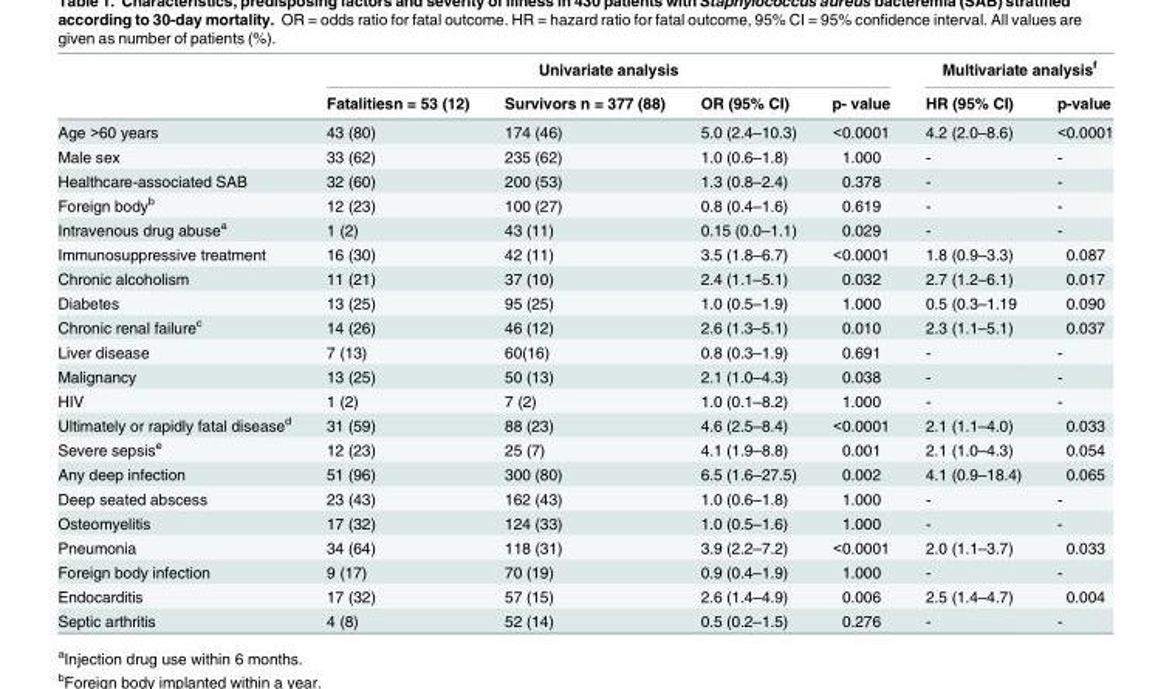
<table><thead><tr><td rowspan="2"></td><td colspan="4">Univariate analysis</td><td colspan="2">Multivariate analysis<sup>f</sup></td></tr><tr><td>Fatalitiesn = 53 (12)</td><td>Survivors n = 377 (88)</td><td>OR (95% CI)</td><td>p- value</td><td>HR (95% CI)</td><td>p-value</td></tr></thead><tbody><tr><td>Age &gt;60 years</td><td>43 (80)</td><td>174 (46)</td><td>5.0 (2.4–10.3)</td><td>&lt;0.0001</td><td>4.2 (2.0–8.6)</td><td>&lt;0.0001</td></tr><tr><td>Male sex</td><td>33 (62)</td><td>235 (62)</td><td>1.0 (0.6–1.8)</td><td>1.000</td><td>-</td><td>-</td></tr><tr><td>Healthcare-associated SAB</td><td>32 (60)</td><td>200 (53)</td><td>1.3 (0.8–2.4)</td><td>0.378</td><td>-</td><td>-</td></tr><tr><td>Foreign body<sup>b</sup></td><td>12 (23)</td><td>100 (27)</td><td>0.8 (0.4–1.6)</td><td>0.619</td><td>-</td><td>-</td></tr><tr><td>Intravenous drug abuse<sup>a</sup></td><td>1 (2)</td><td>43 (11)</td><td>0.15 (0.0–1.1)</td><td>0.029</td><td>-</td><td>-</td></tr><tr><td>Immunosuppressive treatment</td><td>16 (30)</td><td>42 (11)</td><td>3.5 (1.8–6.7)</td><td>&lt;0.0001</td><td>1.8 (0.9–3.3)</td><td>0.087</td></tr><tr><td>Chronic alcoholism</td><td>11 (21)</td><td>37 (10)</td><td>2.4 (1.1–5.1)</td><td>0.032</td><td>2.7 (1.2–6.1)</td><td>0.017</td></tr><tr><td>Diabetes</td><td>13 (25)</td><td>95 (25)</td><td>1.0 (0.5–1.9)</td><td>1.000</td><td>0.5 (0.3–1.19</td><td>0.090</td></tr><tr><td>Chronic renal failure<sup>c</sup></td><td>14 (26)</td><td>46 (12)</td><td>2.6 (1.3–5.1)</td><td>0.010</td><td>2.3 (1.1–5.1)</td><td>0.037</td></tr><tr><td>Liver disease</td><td>7 (13)</td><td>60(16)</td><td>0.8 (0.3–1.9)</td><td>0.691</td><td>-</td><td>-</td></tr><tr><td>Malignancy</td><td>13 (25)</td><td>50 (13)</td><td>2.1 (1.0–4.3)</td><td>0.038</td><td>-</td><td>-</td></tr><tr><td>HIV</td><td>1 (2)</td><td>7 (2)</td><td>1.0 (0.1–8.2)</td><td>1.000</td><td>-</td><td>-</td></tr><tr><td>Ultimately or rapidly fatal disease<sup>d</sup></td><td>31 (59)</td><td>88 (23)</td><td>4.6 (2.5–8.4)</td><td>&lt;0.0001</td><td>2.1 (1.1–4.0)</td><td>0.033</td></tr><tr><td>Severe sepsis<sup>e</sup></td><td>12 (23)</td><td>25 (7)</td><td>4.1 (1.9–8.8)</td><td>0.001</td><td>2.1 (1.0–4.3)</td><td>0.054</td></tr><tr><td>Any deep infection</td><td>51 (96)</td><td>300 (80)</td><td>6.5 (1.6–27.5)</td><td>0.002</td><td>4.1 (0.9–18.4)</td><td>0.065</td></tr><tr><td>Deep seated abscess</td><td>23 (43)</td><td>162 (43)</td><td>1.0 (0.6–1.8)</td><td>1.000</td><td>-</td><td>-</td></tr><tr><td>Osteomyelitis</td><td>17 (32)</td><td>124 (33)</td><td>1.0 (0.5–1.6)</td><td>1.000</td><td>-</td><td>-</td></tr><tr><td>Pneumonia</td><td>34 (64)</td><td>118 (31)</td><td>3.9 (2.2–7.2)</td><td>&lt;0.0001</td><td>2.0 (1.1–3.7)</td><td>0.033</td></tr><tr><td>Foreign body infection</td><td>9 (17)</td><td>70 (19)</td><td>0.9 (0.4–1.9)</td><td>1.000</td><td>-</td><td>-</td></tr><tr><td>Endocarditis</td><td>17 (32)</td><td>57 (15)</td><td>2.6 (1.4–4.9)</td><td>0.006</td><td>2.5 (1.4–4.7)</td><td>0.004</td></tr><tr><td>Septic arthritis</td><td>4 (8)</td><td>52 (14)</td><td>0.5 (0.2–1.5)</td><td>0.276</td><td>-</td><td>-</td></tr></tbody></table>